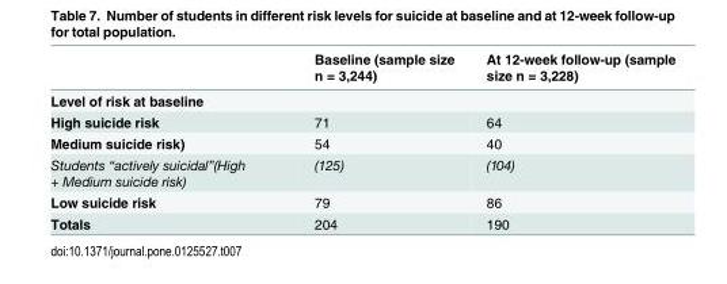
<table><thead><tr><td></td><td>Baseline (sample size n = 3,244)</td><td>At 12-week follow-up (sample size n = 3,228)</td></tr></thead><tbody><tr><td colspan="3">Level of risk at baseline</td></tr><tr><td>High suicide risk</td><td>71</td><td>64</td></tr><tr><td>Medium suicide risk)</td><td>54</td><td>40</td></tr><tr><td>Students “actively suicidal”(High + Medium suicide risk)</td><td>(125)</td><td>(104)</td></tr><tr><td>Low suicide risk</td><td>79</td><td>86</td></tr><tr><td>Totals</td><td>204</td><td>190</td></tr></tbody></table>